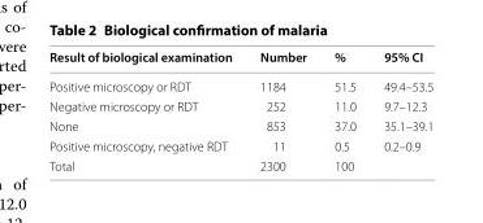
<table><thead><tr><td>Result of biological examination</td><td>Number</td><td>%</td><td>95% CI</td></tr></thead><tbody><tr><td>Positive microscopy or RDT</td><td>1184</td><td>51.5</td><td>49.4–53.5</td></tr><tr><td>Negative microscopy or RDT</td><td>252</td><td>11.0</td><td>9.7–12.3</td></tr><tr><td>None</td><td>853</td><td>37.0</td><td>35.1–39.1</td></tr><tr><td>Positive microscopy, negative RDT</td><td>11</td><td>0.5</td><td>0.2–0.9</td></tr><tr><td>Total</td><td>2300</td><td>100</td><td></td></tr></tbody></table>